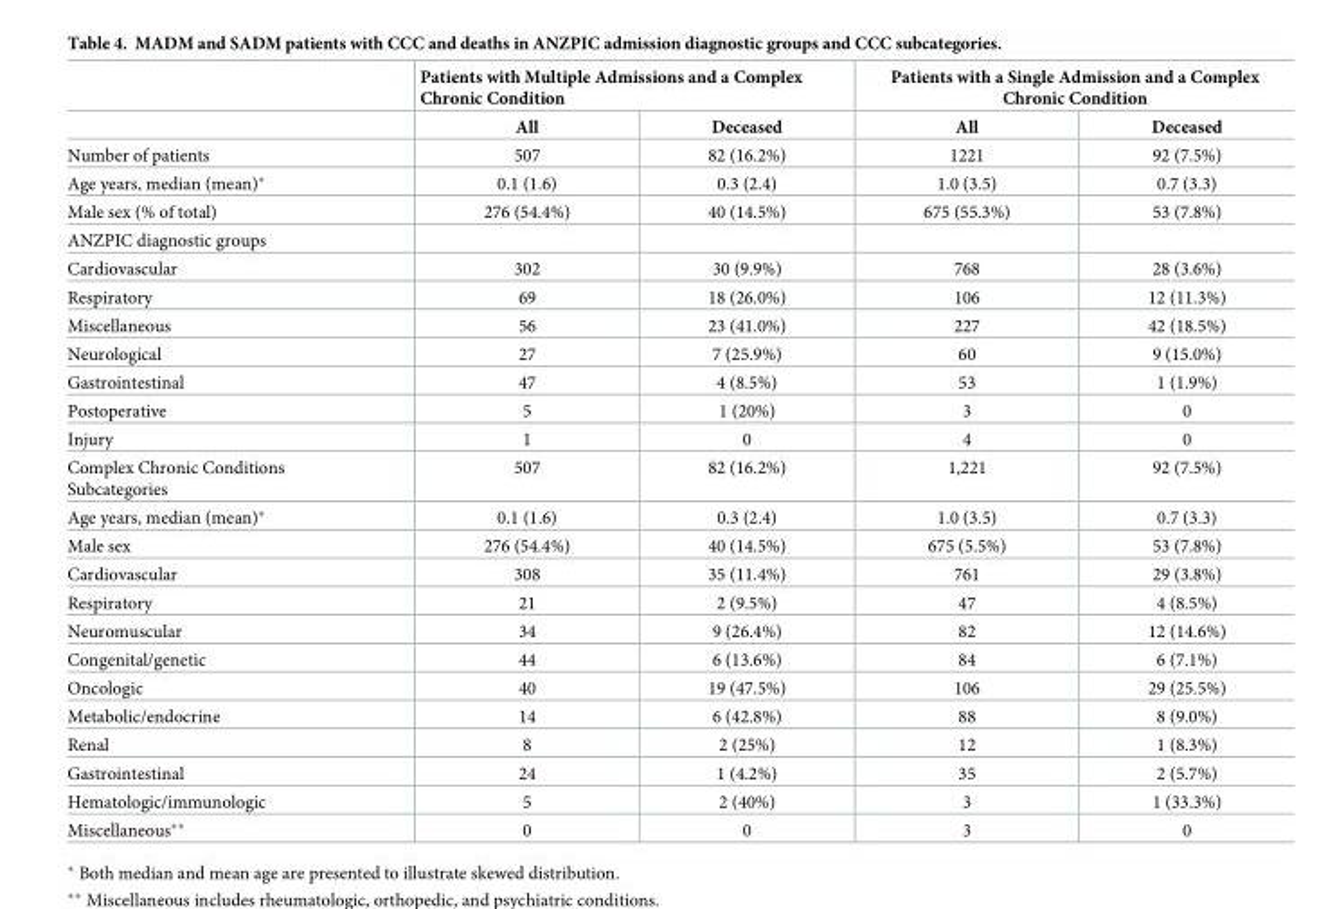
<table><thead><tr><td rowspan="2"></td><td colspan="2">Patients with Multiple Admissions and a Complex Chronic Condition</td><td colspan="2">Patients with a Single Admission and a Complex Chronic Condition</td></tr><tr><td>All</td><td>Deceased</td><td>All</td><td>Deceased</td></tr></thead><tbody><tr><td>Number of patients</td><td>507</td><td>82 (16.2%)</td><td>1221</td><td>92 (7.5%)</td></tr><tr><td>Age years, median (mean)*</td><td>0.1 (1.6)</td><td>0.3 (2.4)</td><td>1.0 (3.5)</td><td>0.7 (3.3)</td></tr><tr><td>Male sex (% of total)</td><td>276 (54.4%)</td><td>40 (14.5%)</td><td>675 (55.3%)</td><td>53 (7.8%)</td></tr><tr><td colspan="5">ANZPIC diagnostic groups</td></tr><tr><td>Cardiovascular</td><td>302</td><td>30 (9.9%)</td><td>768</td><td>28 (3.6%)</td></tr><tr><td>Respiratory</td><td>69</td><td>18 (26.0%)</td><td>106</td><td>12 (11.3%)</td></tr><tr><td>Miscellaneous</td><td>56</td><td>23 (41.0%)</td><td>227</td><td>42 (18.5%)</td></tr><tr><td>Neurological</td><td>27</td><td>7 (25.9%)</td><td>60</td><td>9 (15.0%)</td></tr><tr><td>Gastrointestinal</td><td>47</td><td>4 (8.5%)</td><td>53</td><td>1 (1.9%)</td></tr><tr><td>Postoperative</td><td>5</td><td>1 (20%)</td><td>3</td><td>0</td></tr><tr><td>Injury</td><td>1</td><td>0</td><td>4</td><td>0</td></tr><tr><td>Complex Chronic Conditions Subcategories</td><td>507</td><td>82 (16.2%)</td><td>1,221</td><td>92 (7.5%)</td></tr><tr><td>Age years, median (mean)*</td><td>0.1 (1.6)</td><td>0.3 (2.4)</td><td>1.0 (3.5)</td><td>0.7 (3.3)</td></tr><tr><td>Male sex</td><td>276 (54.4%)</td><td>40 (14.5%)</td><td>675 (5.5%)</td><td>53 (7.8%)</td></tr><tr><td>Cardiovascular</td><td>308</td><td>35 (11.4%)</td><td>761</td><td>29 (3.8%)</td></tr><tr><td>Respiratory</td><td>21</td><td>2 (9.5%)</td><td>47</td><td>4 (8.5%)</td></tr><tr><td>Neuromuscular</td><td>34</td><td>9 (26.4%)</td><td>82</td><td>12 (14.6%)</td></tr><tr><td>Congenital/genetic</td><td>44</td><td>6 (13.6%)</td><td>84</td><td>6 (7.1%)</td></tr><tr><td>Oncologic</td><td>40</td><td>19 (47.5%)</td><td>106</td><td>29 (25.5%)</td></tr><tr><td>Metabolic/endocrine</td><td>14</td><td>6 (42.8%)</td><td>88</td><td>8 (9.0%)</td></tr><tr><td>Renal</td><td>8</td><td>2 (25%)</td><td>12</td><td>1 (8.3%)</td></tr><tr><td>Gastrointestinal</td><td>24</td><td>1 (4.2%)</td><td>35</td><td>2 (5.7%)</td></tr><tr><td>Hematologic/immunologic</td><td>5</td><td>2 (40%)</td><td>3</td><td>1 (33.3%)</td></tr><tr><td>Miscellaneous**</td><td>0</td><td>0</td><td>3</td><td>0</td></tr></tbody></table>